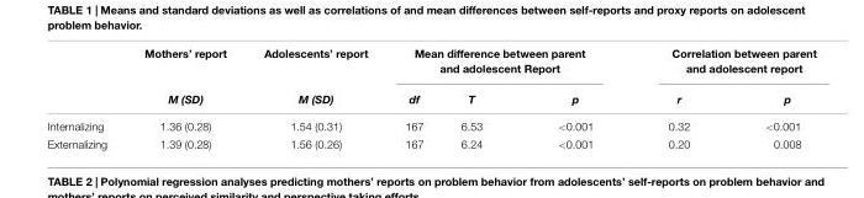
<table><thead><tr><td rowspan="2"></td><td rowspan="2">Mothers’ report M (SD)</td><td rowspan="2">Adolescents’ report M (SD)</td><td colspan="3">Mean difference between parent and adolescent Report</td><td colspan="2">Correlation between parent and adolescent report</td></tr><tr><td>df</td><td>T</td><td>p</td><td>r</td><td>p</td></tr></thead><tbody><tr><td>Internalizing</td><td>1.36 (0.28)</td><td>1.54 (0.31)</td><td>167</td><td>6.53</td><td>&lt;0.001</td><td>0.32</td><td>&lt;0.001</td></tr><tr><td>Externalizing</td><td>1.39 (0.28)</td><td>1.56 (0.26)</td><td>167</td><td>6.24</td><td>&lt;0.001</td><td>0.20</td><td>0.008</td></tr></tbody></table>